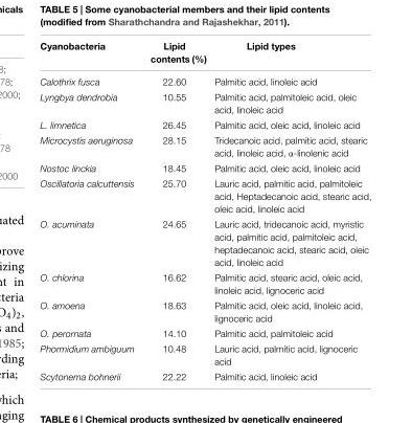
<table><thead><tr><td>Cyanobacteria</td><td>Lipid contents (%)</td><td>Lipid types</td></tr></thead><tbody><tr><td>Calothrix fusca</td><td>22.60</td><td>Palmitic acid, linoleic acid</td></tr><tr><td>Lyngbya dendrobia</td><td>10.55</td><td>Palmitic acid, palmitoleic acid, oleic acid, linoleic acid</td></tr><tr><td>L. limnetica</td><td>26.45</td><td>Palmitic acid, oleic acid, linoleic acid</td></tr><tr><td>Microcystis aeruginosa</td><td>28.15</td><td>Tridecanoic acid, palmitic acid, stearic acid, linoleic acid, α-linolenic acid</td></tr><tr><td>Nostoc linckia</td><td>18.45</td><td>Palmitic acid, oleic acid, linoleic acid</td></tr><tr><td>Oscillatoria calcuttensis</td><td>25.70</td><td>Lauric acid, palmitic acid, palmitoleic acid, Heptadecanoic acid, stearic acid, oleic acid, linoleic acid</td></tr><tr><td>O. acuminata</td><td>24.65</td><td>Lauric acid, tridecanoic acid, myristic acid, palmitic acid, palmitoleic acid, heptadecanoic acid, stearic acid, oleic acid, linoleic acid</td></tr><tr><td>O. chlorina</td><td>16.62</td><td>Palmitic acid, stearic acid, oleic acid, linoleic acid, lignoceric acid</td></tr><tr><td>O. amoena</td><td>18.63</td><td>Palmitic acid, oleic acid, linoleic acid, lignoceric acid</td></tr><tr><td>O. perornata</td><td>14.10</td><td>Palmitic acid, palmitoleic acid</td></tr><tr><td>Phormidium ambiguum</td><td>10.48</td><td>Lauric acid, palmitic acid, lignoceric acid</td></tr><tr><td>Scytonema bohnerii</td><td>22.22</td><td>Palmitic acid, linoleic acid</td></tr></tbody></table>